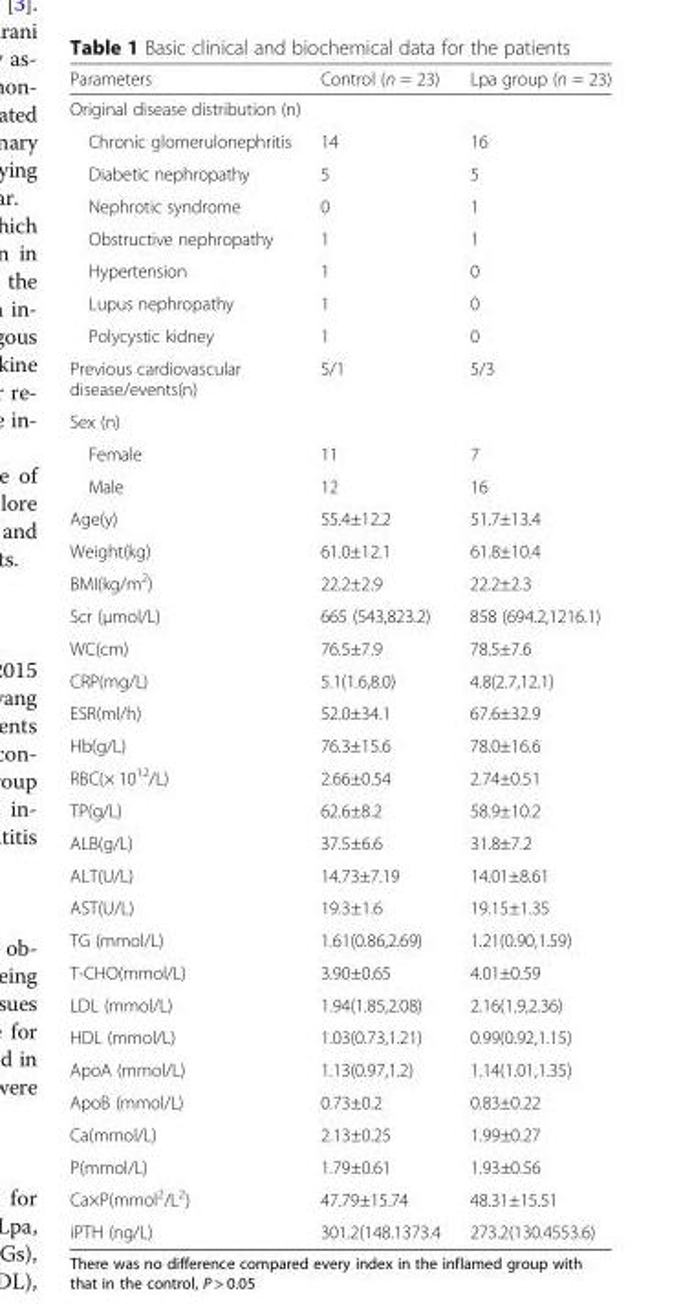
<table><thead><tr><td>Parameters</td><td>Control (n = 23)</td><td>Lpa group (n = 23)</td></tr></thead><tbody><tr><td colspan="3">Original disease distribution (n)</td></tr><tr><td>Chronic glomerulonephritis</td><td>14</td><td>16</td></tr><tr><td>Diabetic nephropathy</td><td>5</td><td>5</td></tr><tr><td>Nephrotic syndrome</td><td>0</td><td>1</td></tr><tr><td>Obstructive nephropathy</td><td>1</td><td>1</td></tr><tr><td>Hypertension</td><td>1</td><td>0</td></tr><tr><td>Lupus nephropathy</td><td>1</td><td>0</td></tr><tr><td>Polycystic kidney</td><td>1</td><td>0</td></tr><tr><td>Previous cardiovascular disease/events(n)</td><td>5/1</td><td>5/3</td></tr><tr><td colspan="3">Sex (n)</td></tr><tr><td>Female</td><td>11</td><td>7</td></tr><tr><td>Male</td><td>12</td><td>16</td></tr><tr><td>Age(y)</td><td>55.4±12.2</td><td>51.7±13.4</td></tr><tr><td>Weight(kg)</td><td>61.0±12.1</td><td>61.8±10.4</td></tr><tr><td>BMI(kg/m<sup>2</sup>)</td><td>22.2±2.9</td><td>22.2±2.3</td></tr><tr><td>Scr (μmol/L)</td><td>665 (543,823.2)</td><td>858 (694.2,1216.1)</td></tr><tr><td>WC(cm)</td><td>76.5±7.9</td><td>78.5±7.6</td></tr><tr><td>CRP(mg/L)</td><td>5.1(1.6,8.0)</td><td>4.8(2.7,12.1)</td></tr><tr><td>ESR(ml/h)</td><td>52.0±34.1</td><td>67.6±32.9</td></tr><tr><td>Hb(g/L)</td><td>76.3±15.6</td><td>78.0±16.6</td></tr><tr><td>RBC(× 10<sup>12</sup>/L)</td><td>2.66±0.54</td><td>2.74±0.51</td></tr><tr><td>TP(g/L)</td><td>62.6±8.2</td><td>58.9±10.2</td></tr><tr><td>ALB(g/L)</td><td>37.5±6.6</td><td>31.8±7.2</td></tr><tr><td>ALT(U/L)</td><td>14.73±7.19</td><td>14.01±8.61</td></tr><tr><td>AST(U/L)</td><td>19.3±1.6</td><td>19.15±1.35</td></tr><tr><td>TG (mmol/L)</td><td>1.61(0.86,2.69)</td><td>1.21(0.90,1.59)</td></tr><tr><td>T-CHO(mmol/L)</td><td>3.90±0.65</td><td>4.01±0.59</td></tr><tr><td>LDL (mmol/L)</td><td>1.94(1.85,2.08)</td><td>2.16(1.9,2.36)</td></tr><tr><td>HDL (mmol/L)</td><td>1.03(0.73,1.21)</td><td>0.99(0.92,1.15)</td></tr><tr><td>ApoA (mmol/L)</td><td>1.13(0.97,1.2)</td><td>1.14(1.01,1.35)</td></tr><tr><td>ApoB (mmol/L)</td><td>0.73±0.2</td><td>0.83±0.22</td></tr><tr><td>Ca(mmol/L)</td><td>2.13±0.25</td><td>1.99±0.27</td></tr><tr><td>P(mmol/L)</td><td>1.79±0.61</td><td>1.93±0.56</td></tr><tr><td>Ca×P(mmol<sup>2</sup>/L<sup>2</sup>)</td><td>47.79±15.74</td><td>48.31±15.51</td></tr><tr><td>iPTH (ng/L)</td><td>301.2(148.1373.4</td><td>273.2(130.4553.6)</td></tr></tbody></table>